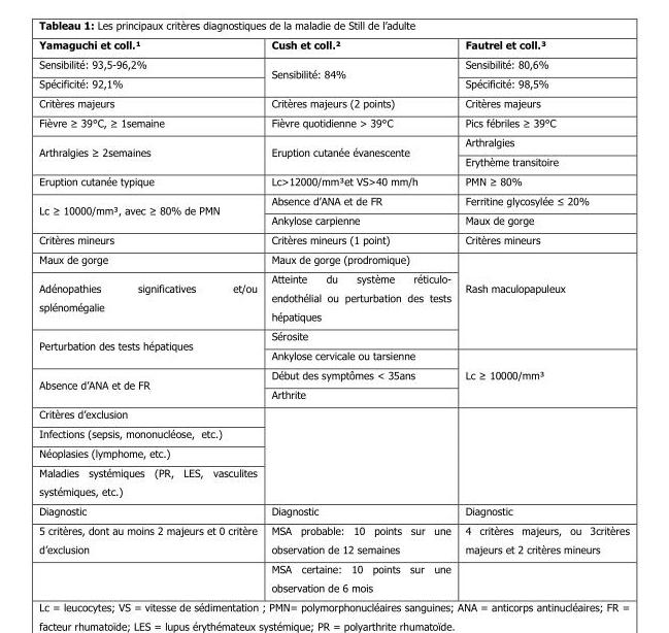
<table><thead><tr><td>Yamaguchi et coll.¹</td><td>Cush et coll.²</td><td>Fautrel et coll.³</td></tr></thead><tbody><tr><td>Sensibilité: 93,5-96,2%</td><td rowspan="2">Sensibilité: 84%</td><td>Sensibilité: 80,6%</td></tr><tr><td>Spécificité: 92,1%</td><td>Spécificité: 98,5%</td></tr><tr><td>Critères majeurs</td><td>Critères majeurs (2 points)</td><td>Critères majeurs</td></tr><tr><td>Fièvre ≥ 39°C, ≥ 1semaine</td><td>Fièvre quotidienne &gt; 39°C</td><td>Pics fébriles ≥ 39°C</td></tr><tr><td rowspan="2">Arthralgies ≥ 2semaines</td><td rowspan="2">Eruption cutanée évanescente</td><td>Arthralgies</td></tr><tr><td>Erythème transitoire</td></tr><tr><td>Eruption cutanée typique</td><td>Lc&gt;12000/mm³et VS&gt;40 mm/h</td><td>PMN ≥ 80%</td></tr><tr><td rowspan="2">Lc ≥ 10000/mm³, avec ≥ 80% de PMN</td><td>Absence d’ANA et de FR</td><td>Ferritine glycosylée ≤ 20%</td></tr><tr><td>Ankylose carpienne</td><td>Maux de gorge</td></tr><tr><td>Critères mineurs</td><td>Critères mineurs (1 point)</td><td>Critères mineurs</td></tr><tr><td>Maux de gorge</td><td>Maux de gorge (prodromique)</td><td rowspan="3">Rash maculopapuleux</td></tr><tr><td>Adénopathies significatives et/ou splénomégalie</td><td>Atteinte du système réticulo- endothélial ou perturbation des tests hépatiques</td></tr><tr><td rowspan="2">Perturbation des tests hépatiques</td><td>Sérosite</td></tr><tr><td>Ankylose cervicale ou tarsienne</td><td rowspan="3">Lc ≥ 10000/mm³</td></tr><tr><td rowspan="2">Absence d’ANA et de FR</td><td>Début des symptômes &lt; 35ans</td></tr><tr><td>Arthrite</td></tr><tr><td>Critères d’exclusion</td><td rowspan="4"></td><td rowspan="4"></td></tr><tr><td>Infections (sepsis, mononucléose, etc.)</td></tr><tr><td>Néoplasies (lymphome, etc.)</td></tr><tr><td>Maladies systémiques (PR, LES, vasculites systémiques, etc.)</td></tr><tr><td>Diagnostic</td><td>Diagnostic</td><td>Diagnostic</td></tr><tr><td rowspan="2">5 critères, dont au moins 2 majeurs et 0 critère d’exclusion</td><td>MSA probable: 10 points sur une observation de 12 semaines</td><td>4 critères majeurs, ou 3critères majeurs et 2 critères mineurs</td></tr><tr><td>MSA certaine: 10 points sur une observation de 6 mois</td><td></td></tr></tbody></table>